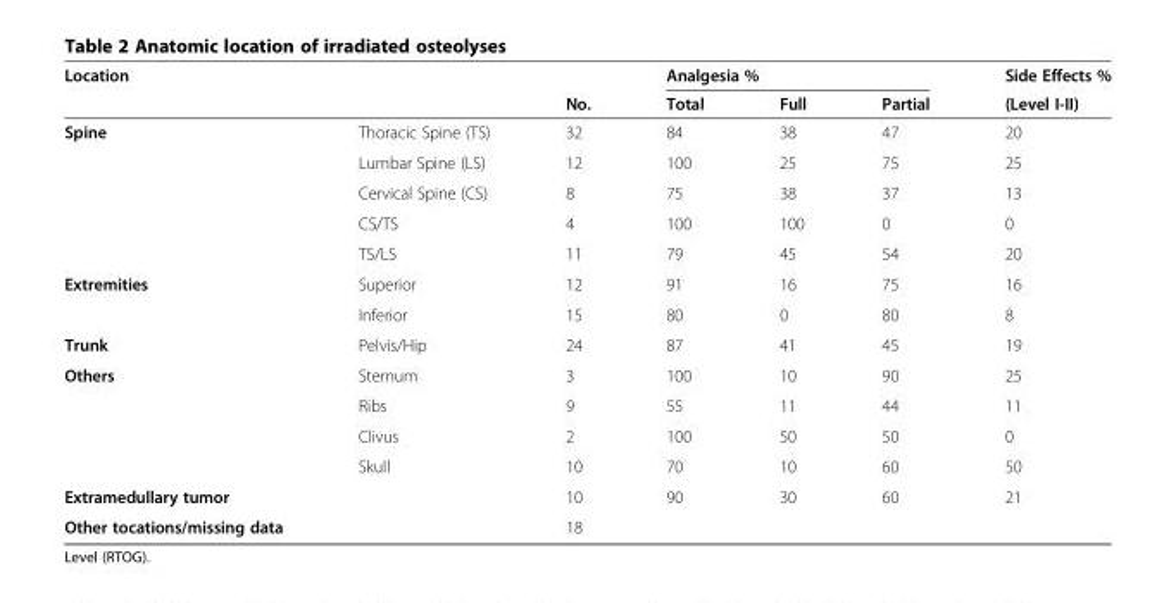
<table><thead><tr><td rowspan="2">Location</td><td rowspan="2"></td><td rowspan="2">No.</td><td colspan="3">Analgesia %</td><td rowspan="2">Side Effects % (Level I-II)</td></tr><tr><td>Total</td><td>Full</td><td>Partial</td></tr></thead><tbody><tr><td rowspan="5">Spine</td><td>Thoracic Spine (TS)</td><td>32</td><td>84</td><td>38</td><td>47</td><td>20</td></tr><tr><td>Lumbar Spine (LS)</td><td>12</td><td>100</td><td>25</td><td>75</td><td>25</td></tr><tr><td>Cervical Spine (CS)</td><td>8</td><td>75</td><td>38</td><td>37</td><td>13</td></tr><tr><td>CS/TS</td><td>4</td><td>100</td><td>100</td><td>0</td><td>0</td></tr><tr><td>TS/LS</td><td>11</td><td>79</td><td>45</td><td>54</td><td>20</td></tr><tr><td rowspan="2">Extremities</td><td>Superior</td><td>12</td><td>91</td><td>16</td><td>75</td><td>16</td></tr><tr><td>Inferior</td><td>15</td><td>80</td><td>0</td><td>80</td><td>8</td></tr><tr><td>Trunk</td><td>Pelvis/Hip</td><td>24</td><td>87</td><td>41</td><td>45</td><td>19</td></tr><tr><td rowspan="4">Others</td><td>Sternum</td><td>3</td><td>100</td><td>10</td><td>90</td><td>25</td></tr><tr><td>Ribs</td><td>9</td><td>55</td><td>11</td><td>44</td><td>11</td></tr><tr><td>Clivus</td><td>2</td><td>100</td><td>50</td><td>50</td><td>0</td></tr><tr><td>Skull</td><td>10</td><td>70</td><td>10</td><td>60</td><td>50</td></tr><tr><td>Extramedullary tumor</td><td></td><td>10</td><td>90</td><td>30</td><td>60</td><td>21</td></tr><tr><td>Other tocations/missing data</td><td></td><td>18</td><td></td><td></td><td></td><td></td></tr></tbody></table>